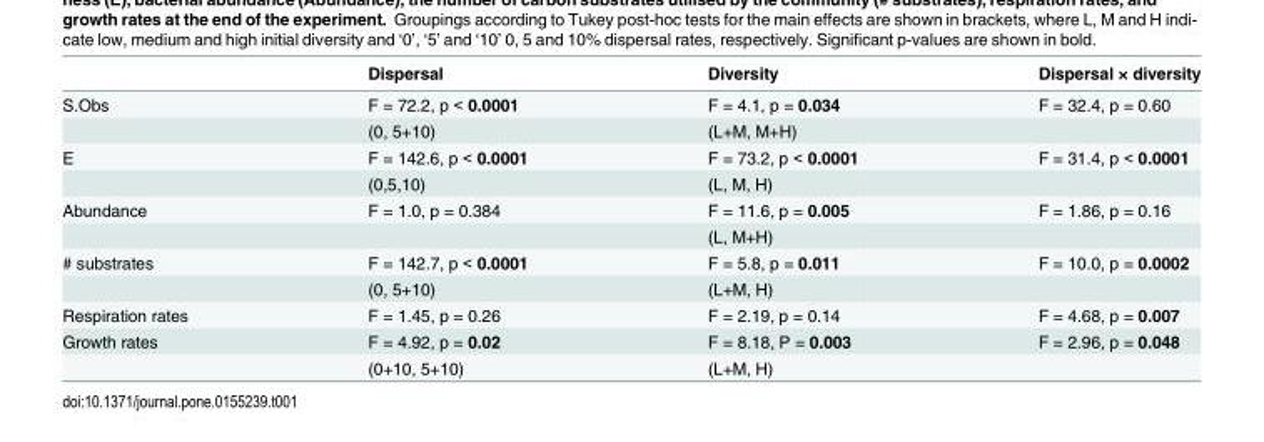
<table><thead><tr><td></td><td>Dispersal</td><td>Diversity</td><td>Dispersal × diversity</td></tr></thead><tbody><tr><td rowspan="2">S.Obs</td><td>F = 72.2, p &lt; 0.0001</td><td>F = 4.1, p = 0.034</td><td>F = 32.4, p = 0.60</td></tr><tr><td>(0, 5+10)</td><td>(L+M, M+H)</td><td></td></tr><tr><td rowspan="2">E</td><td>F = 142.6, p &lt; 0.0001</td><td>F = 73.2, p &lt; 0.0001</td><td>F = 31.4, p &lt; 0.0001</td></tr><tr><td>(0,5,10)</td><td>(L, M, H)</td><td></td></tr><tr><td rowspan="2">Abundance</td><td>F = 1.0, p = 0.384</td><td>F = 11.6, p = 0.005</td><td>F = 1.86, p = 0.16</td></tr><tr><td></td><td>(L, M+H)</td><td></td></tr><tr><td rowspan="2"># substrates</td><td>F = 142.7, p &lt; 0.0001</td><td>F = 5.8, p = 0.011</td><td>F = 10.0, p = 0.0002</td></tr><tr><td>(0, 5+10)</td><td>(L+M, H)</td><td></td></tr><tr><td>Respiration rates</td><td>F = 1.45, p = 0.26</td><td>F = 2.19, p = 0.14</td><td>F = 4.68, p = 0.007</td></tr><tr><td rowspan="2">Growth rates</td><td>F = 4.92, p = 0.02</td><td>F = 8.18, P = 0.003</td><td>F = 2.96, p = 0.048</td></tr><tr><td>(0+10, 5+10)</td><td>(L+M, H)</td><td></td></tr></tbody></table>